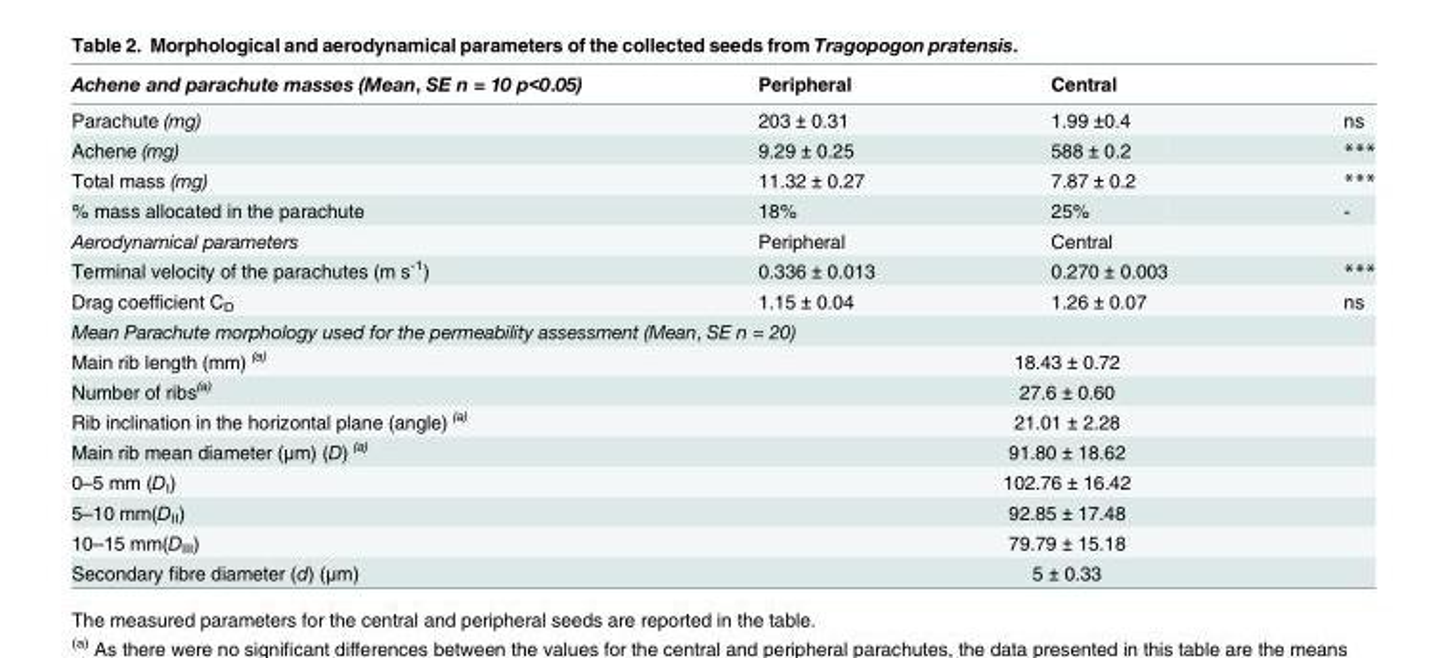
<table><thead><tr><td>Achene and parachute masses (Mean, SE n = 10 p&lt;0.05)</td><td>Peripheral</td><td>Central</td><td></td></tr></thead><tbody><tr><td>Parachute (mg)</td><td>203 ± 0.31</td><td>1.99 ±0.4</td><td>ns</td></tr><tr><td>Achene (mg)</td><td>9.29 ± 0.25</td><td>588 ± 0.2</td><td>***</td></tr><tr><td>Total mass (mg)</td><td>11.32 ± 0.27</td><td>7.87 ± 0.2</td><td>***</td></tr><tr><td>% mass allocated in the parachute</td><td>18%</td><td>25%</td><td>-</td></tr><tr><td>Aerodynamical parameters</td><td>Peripheral</td><td>Central</td><td></td></tr><tr><td>Terminal velocity of the parachutes (m s<sup>-1</sup>)</td><td>0.336 ± 0.013</td><td>0.270 ± 0.003</td><td>***</td></tr><tr><td>Drag coefficient C<sub>D</sub></td><td>1.15 ± 0.04</td><td>1.26 ± 0.07</td><td>ns</td></tr><tr><td colspan="4">Mean Parachute morphology used for the permeability assessment (Mean, SE n = 20)</td></tr><tr><td>Main rib length (mm) <sup>(a)</sup></td><td colspan="3">18.43 ± 0.72</td></tr><tr><td>Number of ribs<sup>(a)</sup></td><td colspan="3">27.6 ± 0.60</td></tr><tr><td>Rib inclination in the horizontal plane (angle) <sup>(a)</sup></td><td colspan="3">21.01 ± 2.28</td></tr><tr><td>Main rib mean diameter (μm) (D) <sup>(a)</sup></td><td colspan="3">91.80 ± 18.62</td></tr><tr><td>0–5 mm (D<sub>I</sub>)</td><td colspan="3">102.76 ± 16.42</td></tr><tr><td>5–10 mm(D<sub>II</sub>)</td><td colspan="3">92.85 ± 17.48</td></tr><tr><td>10–15 mm(D<sub>III</sub>)</td><td colspan="3">79.79 ± 15.18</td></tr><tr><td>Secondary fibre diameter (d) (μm)</td><td colspan="3">5 ± 0.33</td></tr></tbody></table>